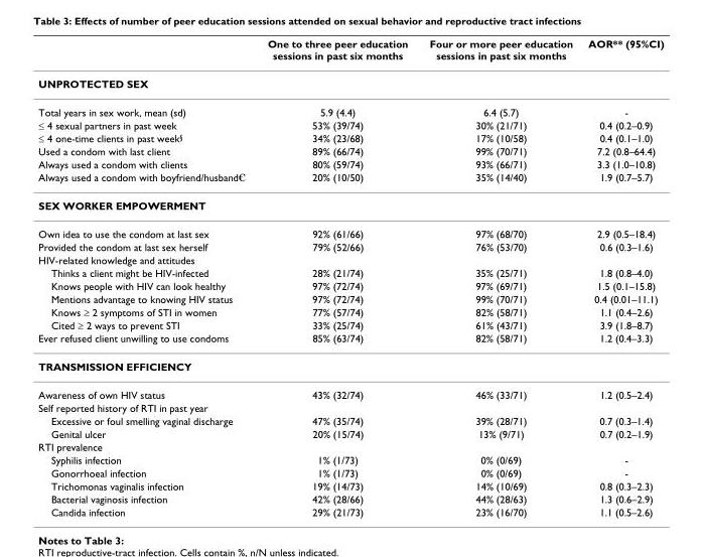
<table><thead><tr><td></td><td>One to three peer education sessions in past six months</td><td>Four or more peer education sessions in past six months</td><td>AOR** (95%CI)</td></tr></thead><tbody><tr><td colspan="4">UNPROTECTED SEX</td></tr><tr><td>Total years in sex work, mean (sd)</td><td>5.9 (4.4)</td><td>6.4 (5.7)</td><td>-</td></tr><tr><td>≤ 4 sexual partners in past week</td><td>53% (39/74)</td><td>30% (21/71)</td><td>0.4 (0.2–0.9)</td></tr><tr><td>≤ 4 one-time clients in past week<sup>§</sup></td><td>34% (23/68)</td><td>17% (10/58)</td><td>0.4 (0.1–1.0)</td></tr><tr><td>Used a condom with last client</td><td>89% (66/74)</td><td>99% (70/71)</td><td>7.2 (0.8–64.4)</td></tr><tr><td>Always used a condom with clients</td><td>80% (59/74)</td><td>93% (66/71)</td><td>3.3 (1.0–10.8)</td></tr><tr><td>Always used a condom with boyfriend/husband<sup>€</sup></td><td>20% (10/50)</td><td>35% (14/40)</td><td>1.9 (0.7–5.7)</td></tr><tr><td colspan="4">SEX WORKER EMPOWERMENT</td></tr><tr><td>Own idea to use the condom at last sex</td><td>92% (61/66)</td><td>97% (68/70)</td><td>2.9 (0.5–18.4)</td></tr><tr><td>Provided the condom at last sex herself</td><td>79% (52/66)</td><td>76% (53/70)</td><td>0.6 (0.3–1.6)</td></tr><tr><td colspan="4">HIV-related knowledge and attitudes</td></tr><tr><td>Thinks a client might be HIV-infected</td><td>28% (21/74)</td><td>35% (25/71)</td><td>1.8 (0.8–4.0)</td></tr><tr><td>Knows people with HIV can look healthy</td><td>97% (72/74)</td><td>97% (69/71)</td><td>1.5 (0.1–15.8)</td></tr><tr><td>Mentions advantage to knowing HIV status</td><td>97% (72/74)</td><td>99% (70/71)</td><td>0.4 (0.01–11.1)</td></tr><tr><td>Knows ≥ 2 symptoms of STI in women</td><td>77% (57/74)</td><td>82% (58/71)</td><td>1.1 (0.4–2.6)</td></tr><tr><td>Cited ≥ 2 ways to prevent STI</td><td>33% (25/74)</td><td>61% (43/71)</td><td>3.9 (1.8–8.7)</td></tr><tr><td>Ever refused client unwilling to use condoms</td><td>85% (63/74)</td><td>82% (58/71)</td><td>1.2 (0.4–3.3)</td></tr><tr><td colspan="4">TRANSMISSION EFFICIENCY</td></tr><tr><td>Awareness of own HIV status</td><td>43% (32/74)</td><td>46% (33/71)</td><td>1.2 (0.5–2.4)</td></tr><tr><td colspan="4">Self reported history of RTI in past year</td></tr><tr><td>Excessive or foul smelling vaginal discharge</td><td>47% (35/74)</td><td>39% (28/71)</td><td>0.7 (0.3–1.4)</td></tr><tr><td>Genital ulcer</td><td>20% (15/74)</td><td>13% (9/71)</td><td>0.7 (0.2–1.9)</td></tr><tr><td colspan="4">RTI prevalence</td></tr><tr><td>Syphilis infection</td><td>1% (1/73)</td><td>0% (0/69)</td><td>-</td></tr><tr><td>Gonorrhoeal infection</td><td>1% (1/73)</td><td>0% (0/69)</td><td>-</td></tr><tr><td>Trichomonas vaginalis infection</td><td>19% (14/73)</td><td>14% (10/69)</td><td>0.8 (0.3–2.3)</td></tr><tr><td>Bacterial vaginosis infection</td><td>42% (28/66)</td><td>44% (28/63)</td><td>1.3 (0.6–2.9)</td></tr><tr><td>Candida infection</td><td>29% (21/73)</td><td>23% (16/70)</td><td>1.1 (0.5–2.6)</td></tr></tbody></table>